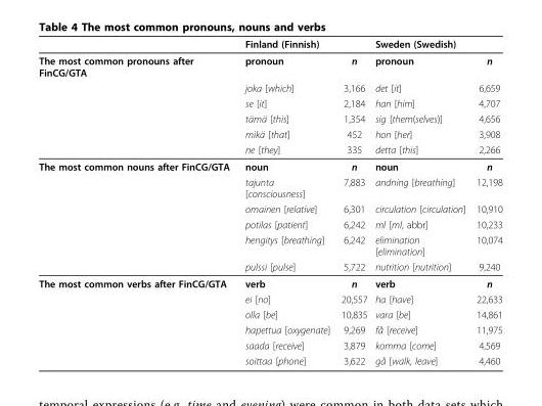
<table><thead><tr><td rowspan="2">The most common pronouns after FinCG/GTA</td><td colspan="2">Finland (Finnish)</td><td colspan="2">Sweden (Swedish)</td></tr><tr><td>pronoun</td><td>n</td><td>pronoun</td><td>n</td></tr></thead><tbody><tr><td></td><td>joka [which]</td><td>3,166</td><td>det [it]</td><td>6,659</td></tr><tr><td></td><td>se [it]</td><td>2,184</td><td>han [him]</td><td>4,707</td></tr><tr><td></td><td>tämä [this]</td><td>1,354</td><td>sig [them(selves)]</td><td>4,656</td></tr><tr><td></td><td>mikä [that]</td><td>452</td><td>hon [her]</td><td>3,908</td></tr><tr><td></td><td>ne [they]</td><td>335</td><td>detta [this]</td><td>2,266</td></tr><tr><td rowspan="6">The most common nouns after FinCG/GTA</td><td>noun</td><td>n</td><td>noun</td><td>n</td></tr><tr><td>tajunta [consciousness]</td><td>7,883</td><td>andning [breathing]</td><td>12,198</td></tr><tr><td>omainen [relative]</td><td>6,301</td><td>circulation [circulation]</td><td>10,910</td></tr><tr><td>potilas [patient]</td><td>6,242</td><td>ml [ml, abbr]</td><td>10,233</td></tr><tr><td>hengitys [breathing]</td><td>6,242</td><td>elimination [elimination]</td><td>10,074</td></tr><tr><td>pulssi [pulse]</td><td>5,722</td><td>nutrition [nutrition]</td><td>9,240</td></tr><tr><td rowspan="6">The most common verbs after FinCG/GTA</td><td>verb</td><td>n</td><td>verb</td><td>n</td></tr><tr><td>ei [no]</td><td>20,557</td><td>ha [have]</td><td>22,633</td></tr><tr><td>olla [be]</td><td>10,835</td><td>vara [be]</td><td>14,861</td></tr><tr><td>hapettua [oxygenate]</td><td>9,269</td><td>få [receive]</td><td>11,975</td></tr><tr><td>saada [receive]</td><td>3,879</td><td>komma [come]</td><td>4,569</td></tr><tr><td>soittaa [phone]</td><td>3,622</td><td>gå [walk, leave]</td><td>4,460</td></tr></tbody></table>